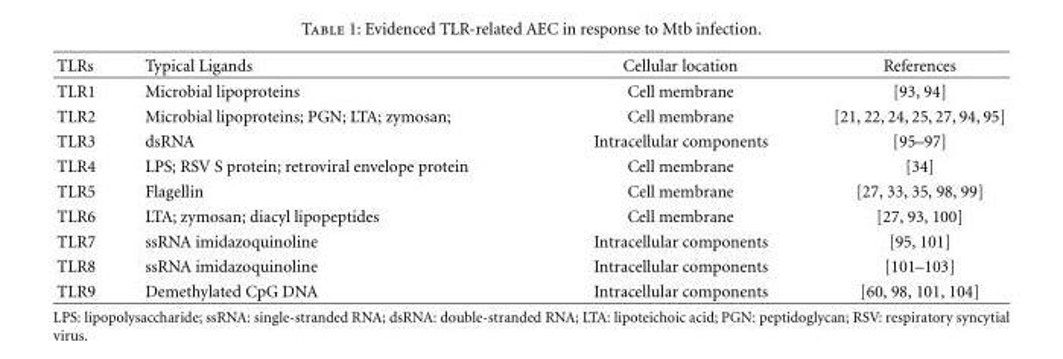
<table><thead><tr><td>TLRs</td><td>Typical Ligands</td><td>Cellular location</td><td>References</td></tr></thead><tbody><tr><td>TLR1</td><td>Microbial lipoproteins</td><td>Cell membrane</td><td>[93, 94]</td></tr><tr><td>TLR2</td><td>Microbial lipoproteins; PGN; LTA; zymosan;</td><td>Cell membrane</td><td>[21, 22, 24, 25, 27, 94, 95]</td></tr><tr><td>TLR3</td><td>dsRNA</td><td>Intracellular components</td><td>[95–97]</td></tr><tr><td>TLR4</td><td>LPS; RSV S protein; retroviral envelope protein</td><td>Cell membrane</td><td>[34]</td></tr><tr><td>TLR5</td><td>Flagellin</td><td>Cell membrane</td><td>[27, 33, 35, 98, 99]</td></tr><tr><td>TLR6</td><td>LTA; zymosan; diacyl lipopeptides</td><td>Cell membrane</td><td>[27, 93, 100]</td></tr><tr><td>TLR7</td><td>ssRNA imidazoquinoline</td><td>Intracellular components</td><td>[95, 101]</td></tr><tr><td>TLR8</td><td>ssRNA imidazoquinoline</td><td>Intracellular components</td><td>[101–103]</td></tr><tr><td>TLR9</td><td>Demethylated CpG DNA</td><td>Intracellular components</td><td>[60, 98, 101, 104]</td></tr></tbody></table>